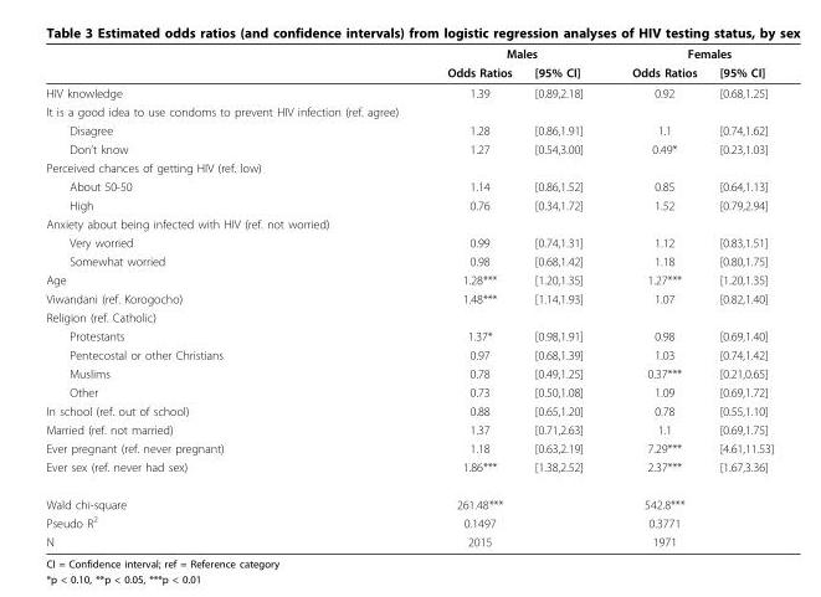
<table><thead><tr><td rowspan="2"></td><td colspan="2">Males</td><td colspan="2">Females</td></tr><tr><td>Odds Ratios</td><td>[95% CI]</td><td>Odds Ratios</td><td>[95% CI]</td></tr></thead><tbody><tr><td>HIV knowledge</td><td>1.39</td><td>[0.89,2.18]</td><td>0.92</td><td>[0.68,1.25]</td></tr><tr><td colspan="5">It is a good idea to use condoms to prevent HIV infection (ref. agree)</td></tr><tr><td>Disagree</td><td>1.28</td><td>[0.86,1.91]</td><td>1.1</td><td>[0.74,1.62]</td></tr><tr><td>Don’t know</td><td>1.27</td><td>[0.54,3.00]</td><td>0.49*</td><td>[0.23,1.03]</td></tr><tr><td colspan="5">Perceived chances of getting HIV (ref. low)</td></tr><tr><td>About 50-50</td><td>1.14</td><td>[0.86,1.52]</td><td>0.85</td><td>[0.64,1.13]</td></tr><tr><td>High</td><td>0.76</td><td>[0.34,1.72]</td><td>1.52</td><td>[0.79,2.94]</td></tr><tr><td colspan="5">Anxiety about being infected with HIV (ref. not worried)</td></tr><tr><td>Very worried</td><td>0.99</td><td>[0.74,1.31]</td><td>1.12</td><td>[0.83,1.51]</td></tr><tr><td>Somewhat worried</td><td>0.98</td><td>[0.68,1.42]</td><td>1.18</td><td>[0.80,1.75]</td></tr><tr><td>Age</td><td>1.28***</td><td>[1.20,1.35]</td><td>1.27***</td><td>[1.20,1.35]</td></tr><tr><td>Viwandani (ref. Korogocho)</td><td>1.48***</td><td>[1.14,1.93]</td><td>1.07</td><td>[0.82,1.40]</td></tr><tr><td colspan="5">Religion (ref. Catholic)</td></tr><tr><td>Protestants</td><td>1.37*</td><td>[0.98,1.91]</td><td>0.98</td><td>[0.69,1.40]</td></tr><tr><td>Pentecostal or other Christians</td><td>0.97</td><td>[0.68,1.39]</td><td>1.03</td><td>[0.74,1.42]</td></tr><tr><td>Muslims</td><td>0.78</td><td>[0.49,1.25]</td><td>0.37***</td><td>[0.21,0.65]</td></tr><tr><td>Other</td><td>0.73</td><td>[0.50,1.08]</td><td>1.09</td><td>[0.69,1.72]</td></tr><tr><td>In school (ref. out of school)</td><td>0.88</td><td>[0.65,1.20]</td><td>0.78</td><td>[0.55,1.10]</td></tr><tr><td>Married (ref. not married)</td><td>1.37</td><td>[0.71,2.63]</td><td>1.1</td><td>[0.69,1.75]</td></tr><tr><td>Ever pregnant (ref. never pregnant)</td><td>1.18</td><td>[0.63,2.19]</td><td>7.29***</td><td>[4.61,11.53]</td></tr><tr><td>Ever sex (ref. never had sex)</td><td>1.86***</td><td>[1.38,2.52]</td><td>2.37***</td><td>[1.67,3.36]</td></tr><tr><td>Wald chi-square</td><td>261.48***</td><td></td><td>542.8***</td><td></td></tr><tr><td>Pseudo R<sup>2</sup></td><td>0.1497</td><td></td><td>0.3771</td><td></td></tr><tr><td>N</td><td>2015</td><td></td><td>1971</td><td></td></tr></tbody></table>